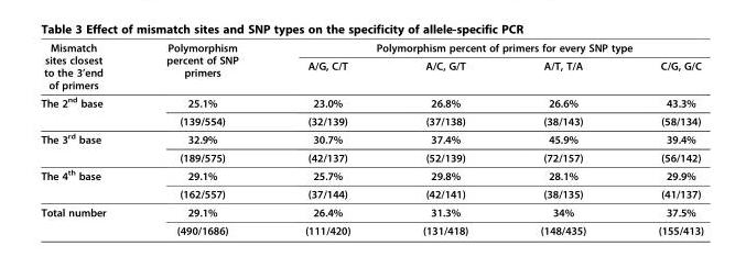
<table><thead><tr><td rowspan="2">Mismatch sites closest to the 3’end of primers</td><td rowspan="2">Polymorphism percent of SNP primers</td><td colspan="4">Polymorphism percent of primers for every SNP type</td></tr><tr><td>A/G, C/T</td><td>A/C, G/T</td><td>A/T, T/A</td><td>C/G, G/C</td></tr></thead><tbody><tr><td rowspan="2">The 2<sup>nd</sup> base</td><td>25.1%</td><td>23.0%</td><td>26.8%</td><td>26.6%</td><td>43.3%</td></tr><tr><td>(139/554)</td><td>(32/139)</td><td>(37/138)</td><td>(38/143)</td><td>(58/134)</td></tr><tr><td rowspan="2">The 3<sup>rd</sup> base</td><td>32.9%</td><td>30.7%</td><td>37.4%</td><td>45.9%</td><td>39.4%</td></tr><tr><td>(189/575)</td><td>(42/137)</td><td>(52/139)</td><td>(72/157)</td><td>(56/142)</td></tr><tr><td rowspan="2">The 4<sup>th</sup> base</td><td>29.1%</td><td>25.7%</td><td>29.8%</td><td>28.1%</td><td>29.9%</td></tr><tr><td>(162/557)</td><td>(37/144)</td><td>(42/141)</td><td>(38/135)</td><td>(41/137)</td></tr><tr><td rowspan="2">Total number</td><td>29.1%</td><td>26.4%</td><td>31.3%</td><td>34%</td><td>37.5%</td></tr><tr><td>(490/1686)</td><td>(111/420)</td><td>(131/418)</td><td>(148/435)</td><td>(155/413)</td></tr></tbody></table>